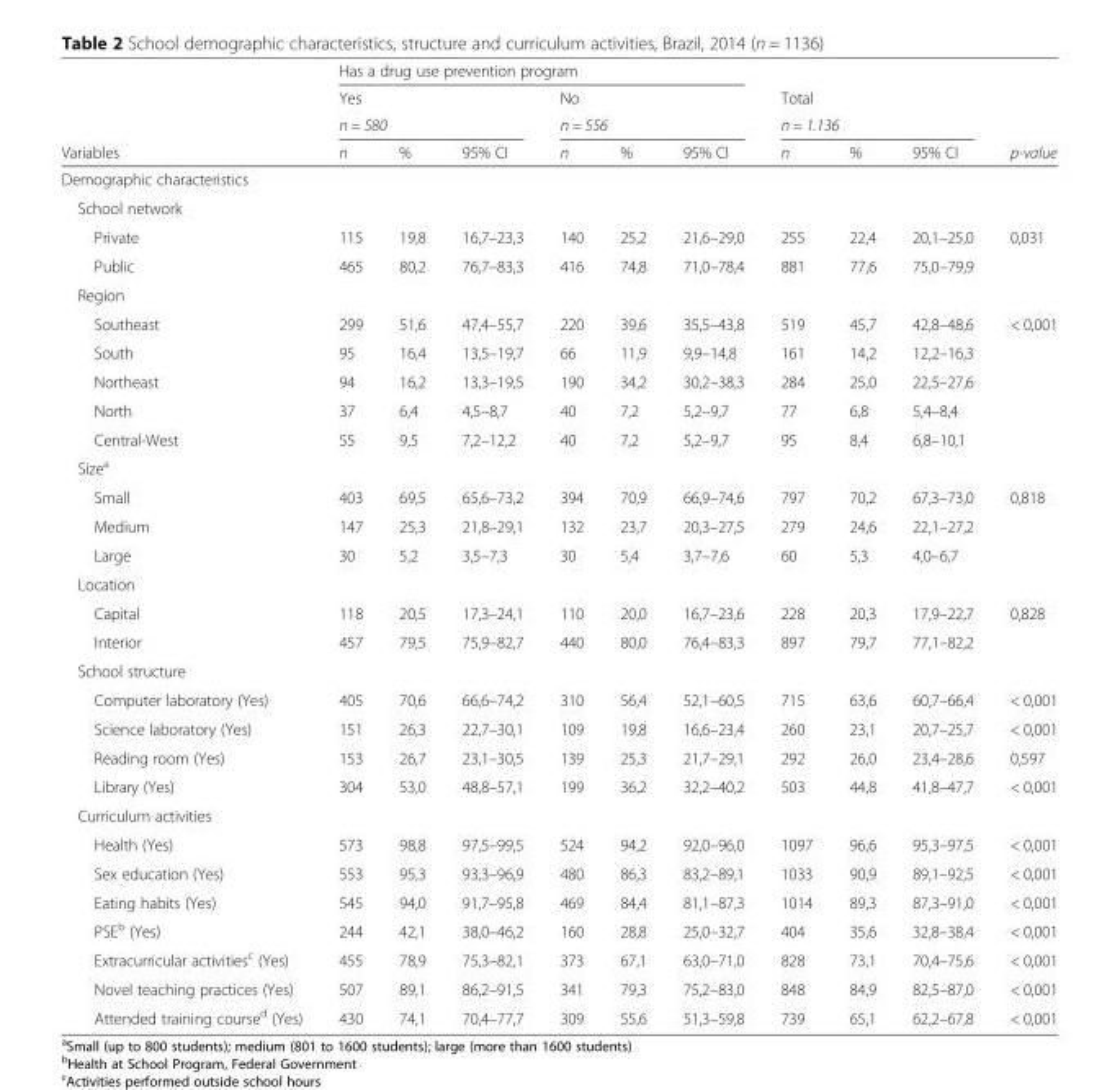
<table><thead><tr><td rowspan="4">Variables</td><td colspan="6">Has a drug use prevention program</td><td rowspan="2">Total</td><td rowspan="2"></td><td rowspan="2"></td><td rowspan="4">p-value</td></tr><tr><td>Yes</td><td></td><td></td><td>No</td><td></td><td></td></tr><tr><td colspan="3">n = 580</td><td colspan="3">n = 556</td><td colspan="3">n = 1.136</td></tr><tr><td>n</td><td>%</td><td>95% CI</td><td>n</td><td>%</td><td>95% CI</td><td>n</td><td>%</td><td>95% CI</td></tr></thead><tbody><tr><td colspan="11">Demographic characteristics</td></tr><tr><td colspan="11">School network</td></tr><tr><td>Private</td><td>115</td><td>19,8</td><td>16,7–23,3</td><td>140</td><td>25,2</td><td>21,6–29,0</td><td>255</td><td>22,4</td><td>20,1–25,0</td><td>0,031</td></tr><tr><td>Public</td><td>465</td><td>80,2</td><td>76,7–83,3</td><td>416</td><td>74,8</td><td>71,0–78,4</td><td>881</td><td>77,6</td><td>75,0–79,9</td><td></td></tr><tr><td colspan="11">Region</td></tr><tr><td>Southeast</td><td>299</td><td>51,6</td><td>47,4–55,7</td><td>220</td><td>39,6</td><td>35,5–43,8</td><td>519</td><td>45,7</td><td>42,8–48,6</td><td>&lt; 0,001</td></tr><tr><td>South</td><td>95</td><td>16,4</td><td>13,5–19,7</td><td>66</td><td>11,9</td><td>9,9–14,8</td><td>161</td><td>14,2</td><td>12,2–16,3</td><td></td></tr><tr><td>Northeast</td><td>94</td><td>16,2</td><td>13,3–19,5</td><td>190</td><td>34,2</td><td>30,2–38,3</td><td>284</td><td>25,0</td><td>22,5–27,6</td><td></td></tr><tr><td>North</td><td>37</td><td>6,4</td><td>4,5–8,7</td><td>40</td><td>7,2</td><td>5,2–9,7</td><td>77</td><td>6,8</td><td>5,4–8,4</td><td></td></tr><tr><td>Central-West</td><td>55</td><td>9,5</td><td>7,2–12,2</td><td>40</td><td>7,2</td><td>5,2–9,7</td><td>95</td><td>8,4</td><td>6,8–10,1</td><td></td></tr><tr><td colspan="11">Size<sup>a</sup></td></tr><tr><td>Small</td><td>403</td><td>69,5</td><td>65,6–73,2</td><td>394</td><td>70,9</td><td>66,9–74,6</td><td>797</td><td>70,2</td><td>67,3–73,0</td><td>0,818</td></tr><tr><td>Medium</td><td>147</td><td>25,3</td><td>21,8–29,1</td><td>132</td><td>23,7</td><td>20,3–27,5</td><td>279</td><td>24,6</td><td>22,1–27,2</td><td></td></tr><tr><td>Large</td><td>30</td><td>5,2</td><td>3,5–7,3</td><td>30</td><td>5,4</td><td>3,7–7,6</td><td>60</td><td>5,3</td><td>4,0–6,7</td><td></td></tr><tr><td colspan="11">Location</td></tr><tr><td>Capital</td><td>118</td><td>20,5</td><td>17,3–24,1</td><td>110</td><td>20,0</td><td>16,7–23,6</td><td>228</td><td>20,3</td><td>17,9–22,7</td><td>0,828</td></tr><tr><td>Interior</td><td>457</td><td>79,5</td><td>75,9–82,7</td><td>440</td><td>80,0</td><td>76,4–83,3</td><td>897</td><td>79,7</td><td>77,1–82,2</td><td></td></tr><tr><td colspan="11">School structure</td></tr><tr><td>Computer laboratory (Yes)</td><td>405</td><td>70,6</td><td>66,6–74,2</td><td>310</td><td>56,4</td><td>52,1–60,5</td><td>715</td><td>63,6</td><td>60,7–66,4</td><td>&lt; 0,001</td></tr><tr><td>Science laboratory (Yes)</td><td>151</td><td>26,3</td><td>22,7–30,1</td><td>109</td><td>19,8</td><td>16,6–23,4</td><td>260</td><td>23,1</td><td>20,7–25,7</td><td>&lt; 0,001</td></tr><tr><td>Reading room (Yes)</td><td>153</td><td>26,7</td><td>23,1–30,5</td><td>139</td><td>25,3</td><td>21,7–29,1</td><td>292</td><td>26,0</td><td>23,4–28,6</td><td>0,597</td></tr><tr><td>Library (Yes)</td><td>304</td><td>53,0</td><td>48,8–57,1</td><td>199</td><td>36,2</td><td>32,2–40,2</td><td>503</td><td>44,8</td><td>41,8–47,7</td><td>&lt; 0,001</td></tr><tr><td colspan="11">Curriculum activities</td></tr><tr><td>Health (Yes)</td><td>573</td><td>98,8</td><td>97,5–99,5</td><td>524</td><td>94,2</td><td>92,0–96,0</td><td>1097</td><td>96,6</td><td>95,3–97,5</td><td>&lt; 0,001</td></tr><tr><td>Sex education (Yes)</td><td>553</td><td>95,3</td><td>93,3–96,9</td><td>480</td><td>86,3</td><td>83,2–89,1</td><td>1033</td><td>90,9</td><td>89,1–92,5</td><td>&lt; 0,001</td></tr><tr><td>Eating habits (Yes)</td><td>545</td><td>94,0</td><td>91,7–95,8</td><td>469</td><td>84,4</td><td>81,1–87,3</td><td>1014</td><td>89,3</td><td>87,3–91,0</td><td>&lt; 0,001</td></tr><tr><td>PSE<sup>b</sup> (Yes)</td><td>244</td><td>42,1</td><td>38,0–46,2</td><td>160</td><td>28,8</td><td>25,0–32,7</td><td>404</td><td>35,6</td><td>32,8–38,4</td><td>&lt; 0,001</td></tr><tr><td>Extracurricular activities<sup>c</sup> (Yes)</td><td>455</td><td>78,9</td><td>75,3–82,1</td><td>373</td><td>67,1</td><td>63,0–71,0</td><td>828</td><td>73,1</td><td>70,4–75,6</td><td>&lt; 0,001</td></tr><tr><td>Novel teaching practices (Yes)</td><td>507</td><td>89,1</td><td>86,2–91,5</td><td>341</td><td>79,3</td><td>75,2–83,0</td><td>848</td><td>84,9</td><td>82,5–87,0</td><td>&lt; 0,001</td></tr><tr><td>Attended training course<sup>d</sup> (Yes)</td><td>430</td><td>74,1</td><td>70,4–77,7</td><td>309</td><td>55,6</td><td>51,3–59,8</td><td>739</td><td>65,1</td><td>62,2–67,8</td><td>&lt; 0,001</td></tr></tbody></table>